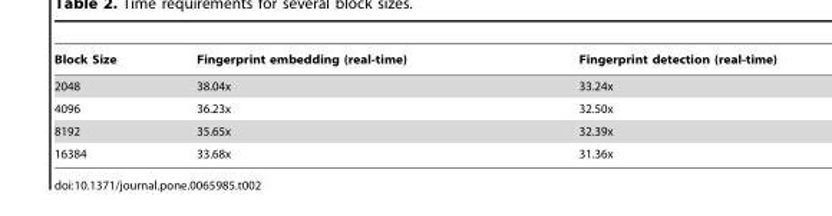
<table><thead><tr><td>Block Size</td><td>Fingerprint embedding (real-time)</td><td>Fingerprint detection (real-time)</td></tr></thead><tbody><tr><td>2048</td><td>38.04x</td><td>33.24x</td></tr><tr><td>4096</td><td>36.23x</td><td>32.50x</td></tr><tr><td>8192</td><td>35.65x</td><td>32.39x</td></tr><tr><td>16384</td><td>33.68x</td><td>31.36x</td></tr></tbody></table>